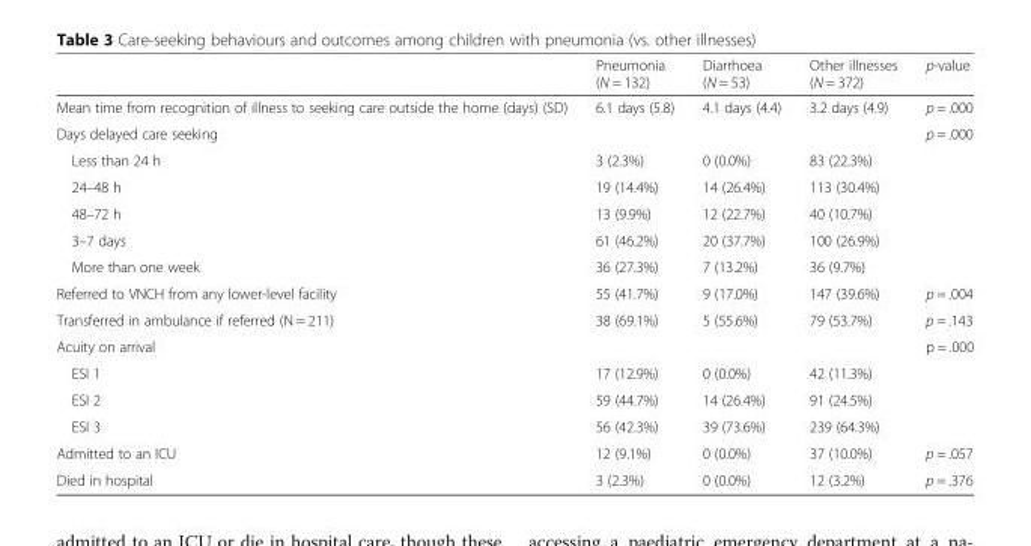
<table><thead><tr><td></td><td>Pneumonia (N = 132)</td><td>Diarrhoea (N = 53)</td><td>Other illnesses (N = 372)</td><td>p-value</td></tr></thead><tbody><tr><td>Mean time from recognition of illness to seeking care outside the home (days) (SD)</td><td>6.1 days (5.8)</td><td>4.1 days (4.4)</td><td>3.2 days (4.9)</td><td>p = .000</td></tr><tr><td>Days delayed care seeking</td><td></td><td></td><td></td><td>p = .000</td></tr><tr><td>Less than 24 h</td><td>3 (2.3%)</td><td>0 (0.0%)</td><td>83 (22.3%)</td><td></td></tr><tr><td>24–48 h</td><td>19 (14.4%)</td><td>14 (26.4%)</td><td>113 (30.4%)</td><td></td></tr><tr><td>48–72 h</td><td>13 (9.9%)</td><td>12 (22.7%)</td><td>40 (10.7%)</td><td></td></tr><tr><td>3–7 days</td><td>61 (46.2%)</td><td>20 (37.7%)</td><td>100 (26.9%)</td><td></td></tr><tr><td>More than one week</td><td>36 (27.3%)</td><td>7 (13.2%)</td><td>36 (9.7%)</td><td></td></tr><tr><td>Referred to VNCH from any lower-level facility</td><td>55 (41.7%)</td><td>9 (17.0%)</td><td>147 (39.6%)</td><td>p = .004</td></tr><tr><td>Transferred in ambulance if referred (N = 211)</td><td>38 (69.1%)</td><td>5 (55.6%)</td><td>79 (53.7%)</td><td>p = .143</td></tr><tr><td>Acuity on arrival</td><td></td><td></td><td></td><td>p = .000</td></tr><tr><td>ESI 1</td><td>17 (12.9%)</td><td>0 (0.0%)</td><td>42 (11.3%)</td><td></td></tr><tr><td>ESI 2</td><td>59 (44.7%)</td><td>14 (26.4%)</td><td>91 (24.5%)</td><td></td></tr><tr><td>ESI 3</td><td>56 (42.3%)</td><td>39 (73.6%)</td><td>239 (64.3%)</td><td></td></tr><tr><td>Admitted to an ICU</td><td>12 (9.1%)</td><td>0 (0.0%)</td><td>37 (10.0%)</td><td>p = .057</td></tr><tr><td>Died in hospital</td><td>3 (2.3%)</td><td>0 (0.0%)</td><td>12 (3.2%)</td><td>p = .376</td></tr></tbody></table>